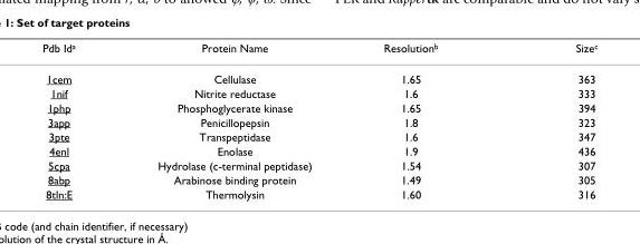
<table><thead><tr><td>Pdb Ida</td><td>Protein Name</td><td>Resolutionb</td><td>Sizec</td></tr></thead><tbody><tr><td>1cem</td><td>Cellulase</td><td>1.65</td><td>363</td></tr><tr><td>1nif</td><td>Nitrite reductase</td><td>1.6</td><td>333</td></tr><tr><td>1php</td><td>Phosphoglycerate kinase</td><td>1.65</td><td>394</td></tr><tr><td>3app</td><td>Penicillopepsin</td><td>1.8</td><td>323</td></tr><tr><td>3pte</td><td>Transpeptidase</td><td>1.6</td><td>347</td></tr><tr><td>4enl</td><td>Enolase</td><td>1.9</td><td>436</td></tr><tr><td>5cpa</td><td>Hydrolase (c-terminal peptidase)</td><td>1.54</td><td>307</td></tr><tr><td>8abp</td><td>Arabinose binding protein</td><td>1.49</td><td>305</td></tr><tr><td>8tln:E</td><td>Thermolysin</td><td>1.60</td><td>316</td></tr></tbody></table>